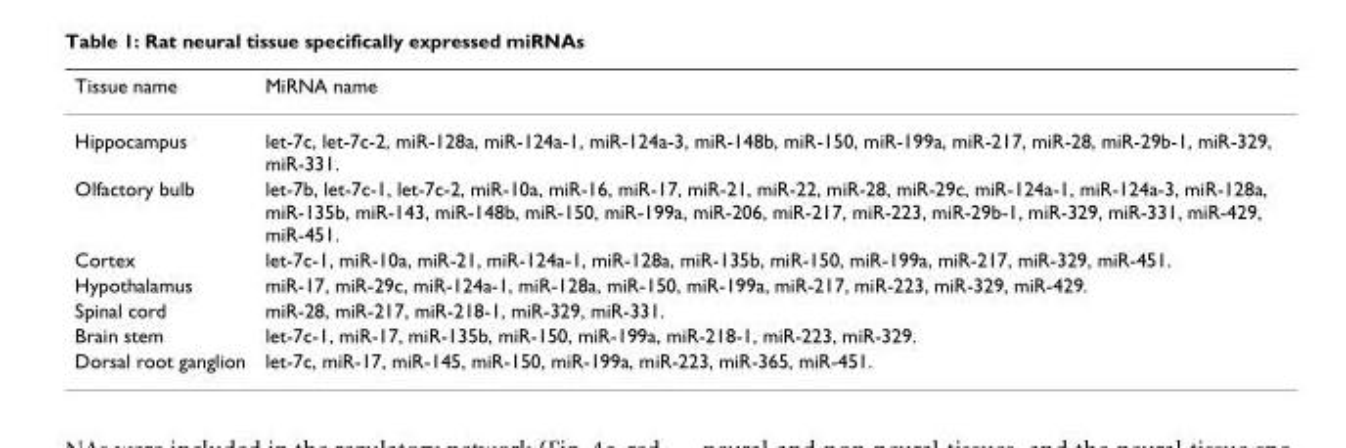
<table><thead><tr><td>Tissue name</td><td>MiRNA name</td></tr></thead><tbody><tr><td>Hippocampus</td><td>let-7c, let-7c-2, miR-128a, miR-124a-1, miR-124a-3, miR-148b, miR-150, miR-199a, miR-217, miR-28, miR-29b-1, miR-329, miR-331.</td></tr><tr><td>Olfactory bulb</td><td>let-7b, let-7c-1, let-7c-2, miR-10a, miR-16, miR-17, miR-21, miR-22, miR-28, miR-29c, miR-124a-1, miR-124a-3, miR-128a, miR-135b, miR-143, miR-148b, miR-150, miR-199a, miR-206, miR-217, miR-223, miR-29b-1, miR-329, miR-331, miR-429, miR-451.</td></tr><tr><td>Cortex</td><td>let-7c-1, miR-10a, miR-21, miR-124a-1, miR-128a, miR-135b, miR-150, miR-199a, miR-217, miR-329, miR-451.</td></tr><tr><td>Hypothalamus</td><td>miR-17, miR-29c, miR-124a-1, miR-128a, miR-150, miR-199a, miR-217, miR-223, miR-329, miR-429.</td></tr><tr><td>Spinal cord</td><td>miR-28, miR-217, miR-218-1, miR-329, miR-331.</td></tr><tr><td>Brain stem</td><td>let-7c-1, miR-17, miR-135b, miR-150, miR-199a, miR-218-1, miR-223, miR-329.</td></tr><tr><td>Dorsal root ganglion</td><td>let-7c, miR-17, miR-145, miR-150, miR-199a, miR-223, miR-365, miR-451.</td></tr></tbody></table>